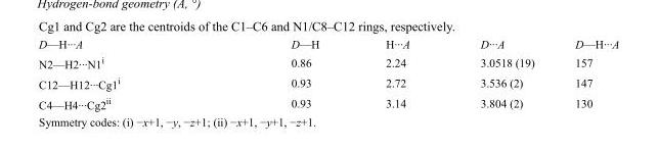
<table><tbody><tr><td>D—H···A</td><td>D—H</td><td>H···A</td><td>D···A</td><td>D—H···A</td></tr><tr><td>N2—H2···N1<sup>i</sup></td><td>0.86</td><td>2.24</td><td>3.0518 (19)</td><td>157</td></tr><tr><td>C12—H12···Cg1<sup>i</sup></td><td>0.93</td><td>2.72</td><td>3.536 (2)</td><td>147</td></tr><tr><td>C4—H4···Cg2<sup>ii</sup></td><td>0.93</td><td>3.14</td><td>3.804 (2)</td><td>130</td></tr></tbody></table>